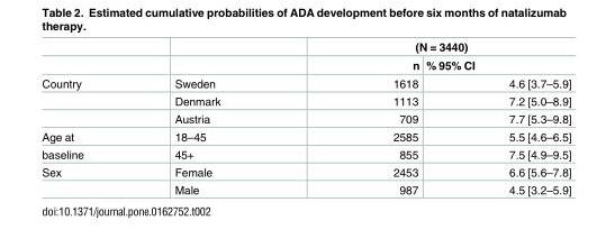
<table><thead><tr><td rowspan="2"></td><td rowspan="2"></td><td colspan="2">(N = 3440)</td></tr><tr><td>n</td><td>% 95% CI</td></tr></thead><tbody><tr><td rowspan="3">Country</td><td>Sweden</td><td>1618</td><td>4.6 [3.7–5.9]</td></tr><tr><td>Denmark</td><td>1113</td><td>7.2 [5.0–8.9]</td></tr><tr><td>Austria</td><td>709</td><td>7.7 [5.3–9.8]</td></tr><tr><td>Age at</td><td>18–45</td><td>2585</td><td>5.5 [4.6–6.5]</td></tr><tr><td>baseline</td><td>45+</td><td>855</td><td>7.5 [4.9–9.5]</td></tr><tr><td rowspan="2">Sex</td><td>Female</td><td>2453</td><td>6.6 [5.6–7.8]</td></tr><tr><td>Male</td><td>987</td><td>4.5 [3.2–5.9]</td></tr></tbody></table>